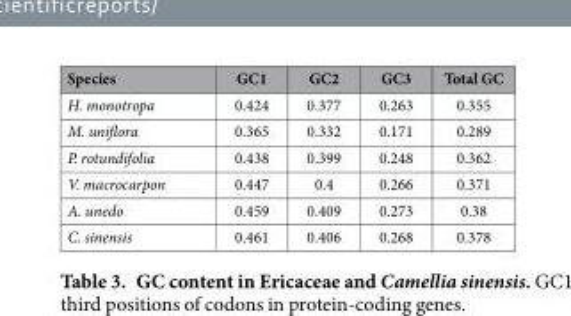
<table><thead><tr><td>Species</td><td>GC1</td><td>GC2</td><td>GC3</td><td>Total GC</td></tr></thead><tbody><tr><td>H. monotropa</td><td>0.424</td><td>0.377</td><td>0.263</td><td>0.355</td></tr><tr><td>M. uniflora</td><td>0.365</td><td>0.332</td><td>0.171</td><td>0.289</td></tr><tr><td>P. rotundifolia</td><td>0.438</td><td>0.399</td><td>0.248</td><td>0.362</td></tr><tr><td>V. macrocarpon</td><td>0.447</td><td>0.4</td><td>0.266</td><td>0.371</td></tr><tr><td>A. unedo</td><td>0.459</td><td>0.409</td><td>0.273</td><td>0.38</td></tr><tr><td>C. sinensis</td><td>0.461</td><td>0.406</td><td>0.268</td><td>0.378</td></tr></tbody></table>